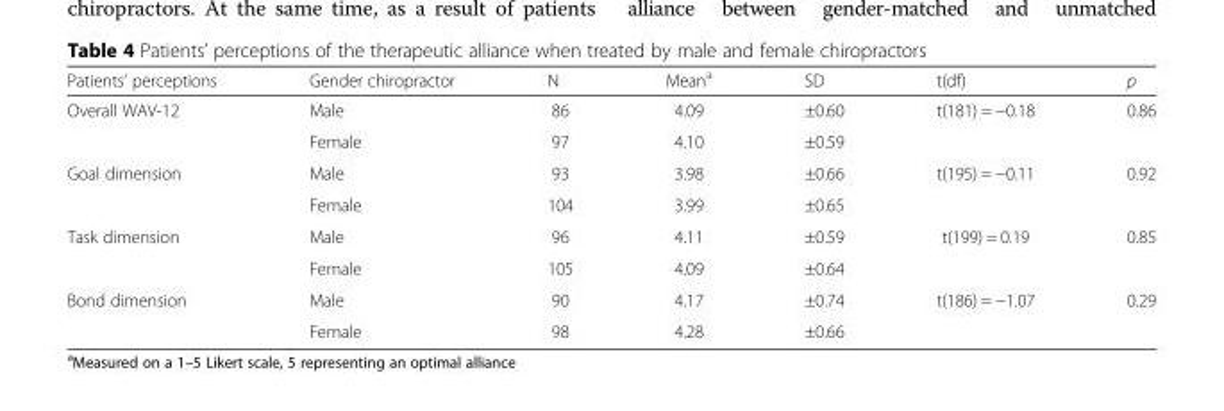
<table><thead><tr><td>Patients’ perceptions</td><td>Gender chiropractor</td><td>N</td><td>Mean<sup>a</sup></td><td>SD</td><td>t(df)</td><td>p</td></tr></thead><tbody><tr><td rowspan="2">Overall WAV-12</td><td>Male</td><td>86</td><td>4.09</td><td>±0.60</td><td>t(181) = −0.18</td><td>0.86</td></tr><tr><td>Female</td><td>97</td><td>4.10</td><td>±0.59</td><td></td><td></td></tr><tr><td rowspan="2">Goal dimension</td><td>Male</td><td>93</td><td>3.98</td><td>±0.66</td><td>t(195) = −0.11</td><td>0.92</td></tr><tr><td>Female</td><td>104</td><td>3.99</td><td>±0.65</td><td></td><td></td></tr><tr><td rowspan="2">Task dimension</td><td>Male</td><td>96</td><td>4.11</td><td>±0.59</td><td>t(199) = 0.19</td><td>0.85</td></tr><tr><td>Female</td><td>105</td><td>4.09</td><td>±0.64</td><td></td><td></td></tr><tr><td rowspan="2">Bond dimension</td><td>Male</td><td>90</td><td>4.17</td><td>±0.74</td><td>t(186) = −1.07</td><td>0.29</td></tr><tr><td>Female</td><td>98</td><td>4.28</td><td>±0.66</td><td></td><td></td></tr></tbody></table>